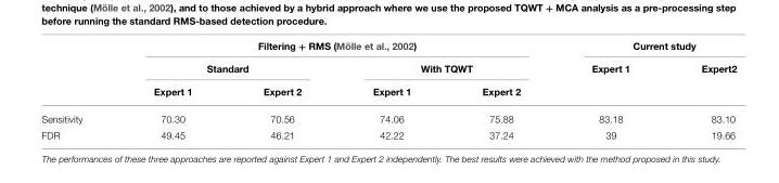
<table><thead><tr><td rowspan="3"></td><td colspan="4">Filtering + RMS (Mölle et al., 2002)</td><td colspan="2">Current study</td></tr><tr><td colspan="2">Standard</td><td colspan="2">With TQWT</td><td rowspan="2">Expert 1</td><td rowspan="2">Expert2</td></tr><tr><td>Expert 1</td><td>Expert 2</td><td>Expert 1</td><td>Expert 2</td></tr></thead><tbody><tr><td>Sensitivity</td><td>70.30</td><td>70.56</td><td>74.06</td><td>75.88</td><td>83.18</td><td>83.10</td></tr><tr><td>FDR</td><td>49.45</td><td>46.21</td><td>42.22</td><td>37.24</td><td>39</td><td>19.66</td></tr></tbody></table>